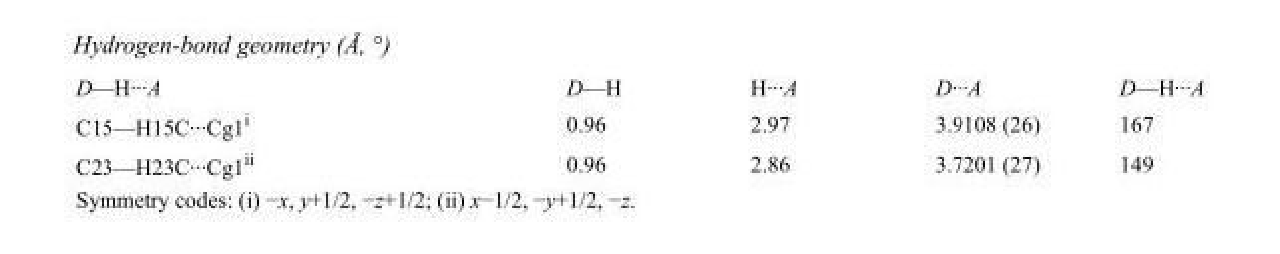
<table><tbody><tr><td>D—H···A</td><td>D—H</td><td>H···A</td><td>D···A</td><td>D—H···A</td></tr><tr><td>C15—H15C···Cg1<sup>i</sup></td><td>0.96</td><td>2.97</td><td>3.9108 (26)</td><td>167</td></tr><tr><td>C23—H23C···Cg1<sup>ii</sup></td><td>0.96</td><td>2.86</td><td>3.7201 (27)</td><td>149</td></tr></tbody></table>